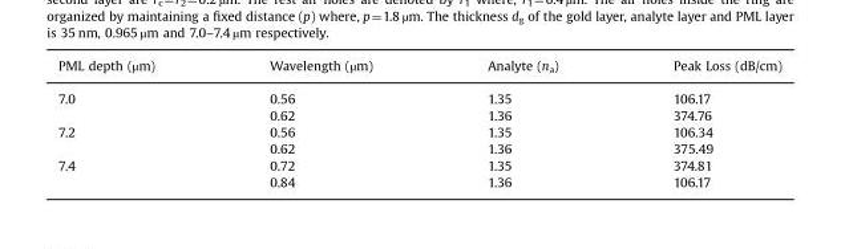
<table><thead><tr><td>PML depth (µm)</td><td>Wavelength (µm)</td><td>Analyte (n<sub>a</sub>)</td><td>Peak Loss (dB/cm)</td></tr></thead><tbody><tr><td rowspan="2">7.0</td><td>0.56</td><td>1.35</td><td>106.17</td></tr><tr><td>0.62</td><td>1.36</td><td>374.76</td></tr><tr><td rowspan="2">7.2</td><td>0.56</td><td>1.35</td><td>106.34</td></tr><tr><td>0.62</td><td>1.36</td><td>375.49</td></tr><tr><td rowspan="2">7.4</td><td>0.72</td><td>1.35</td><td>374.81</td></tr><tr><td>0.84</td><td>1.36</td><td>106.17</td></tr></tbody></table>